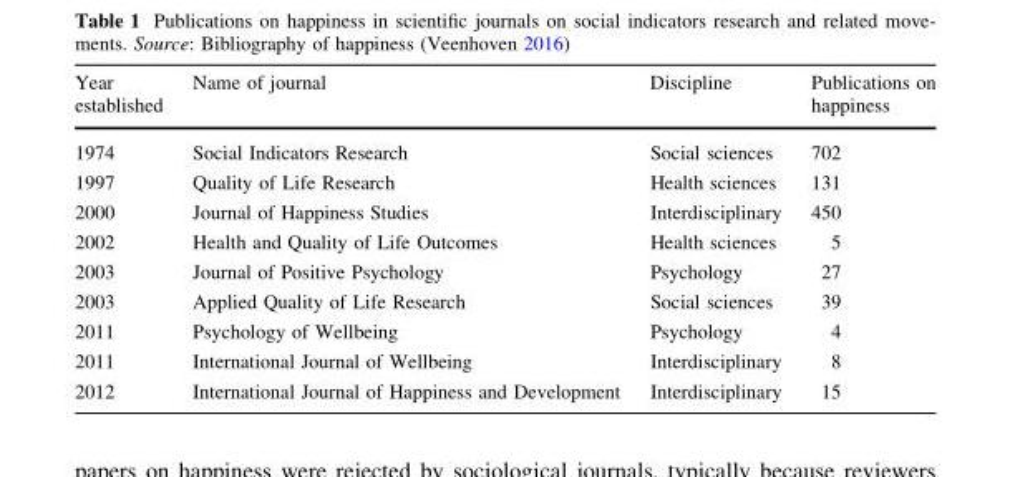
<table><thead><tr><td>Year established</td><td>Name of journal</td><td>Discipline</td><td>Publications on happiness</td></tr></thead><tbody><tr><td>1974</td><td>Social Indicators Research</td><td>Social sciences</td><td>702</td></tr><tr><td>1997</td><td>Quality of Life Research</td><td>Health sciences</td><td>131</td></tr><tr><td>2000</td><td>Journal of Happiness Studies</td><td>Interdisciplinary</td><td>450</td></tr><tr><td>2002</td><td>Health and Quality of Life Outcomes</td><td>Health sciences</td><td>5</td></tr><tr><td>2003</td><td>Journal of Positive Psychology</td><td>Psychology</td><td>27</td></tr><tr><td>2003</td><td>Applied Quality of Life Research</td><td>Social sciences</td><td>39</td></tr><tr><td>2011</td><td>Psychology of Wellbeing</td><td>Psychology</td><td>4</td></tr><tr><td>2011</td><td>International Journal of Wellbeing</td><td>Interdisciplinary</td><td>8</td></tr><tr><td>2012</td><td>International Journal of Happiness and Development</td><td>Interdisciplinary</td><td>15</td></tr></tbody></table>